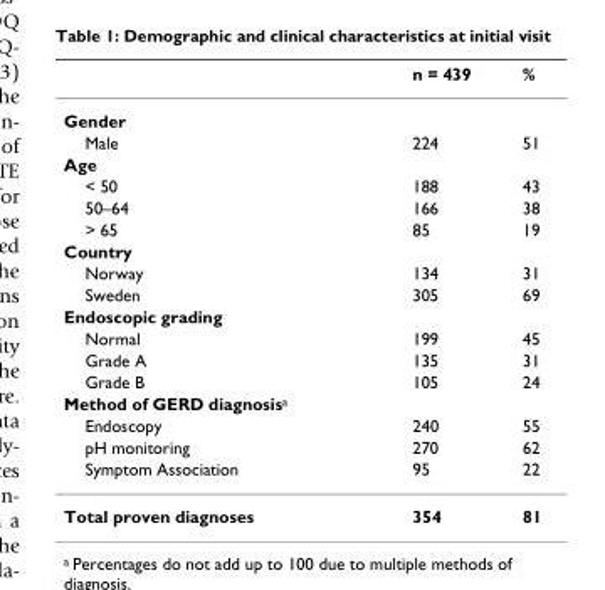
<table><thead><tr><td></td><td>n = 439</td><td>%</td></tr></thead><tbody><tr><td colspan="3">Gender</td></tr><tr><td>Male</td><td>224</td><td>51</td></tr><tr><td colspan="3">Age</td></tr><tr><td>&lt; 50</td><td>188</td><td>43</td></tr><tr><td>50–64</td><td>166</td><td>38</td></tr><tr><td>&gt; 65</td><td>85</td><td>19</td></tr><tr><td colspan="3">Country</td></tr><tr><td>Norway</td><td>134</td><td>31</td></tr><tr><td>Sweden</td><td>305</td><td>69</td></tr><tr><td colspan="3">Endoscopic grading</td></tr><tr><td>Normal</td><td>199</td><td>45</td></tr><tr><td>Grade A</td><td>135</td><td>31</td></tr><tr><td>Grade B</td><td>105</td><td>24</td></tr><tr><td colspan="3">Method of GERD diagnosis<sup>a</sup></td></tr><tr><td>Endoscopy</td><td>240</td><td>55</td></tr><tr><td>pH monitoring</td><td>270</td><td>62</td></tr><tr><td>Symptom Association</td><td>95</td><td>22</td></tr><tr><td>Total proven diagnoses</td><td>354</td><td>81</td></tr></tbody></table>